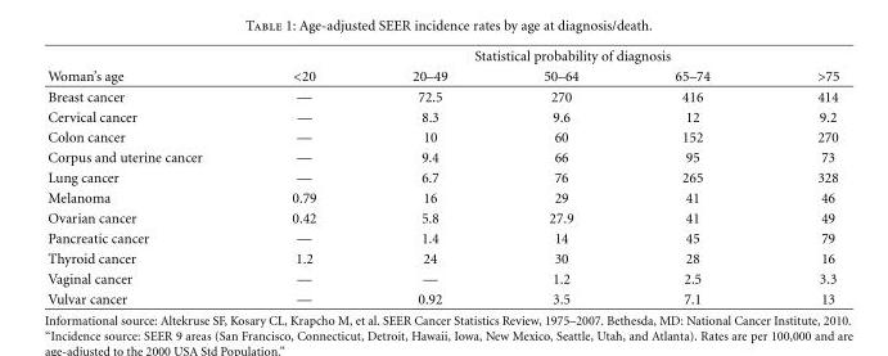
<table><thead><tr><td rowspan="2">Woman’s age</td><td colspan="5">Statistical probability of diagnosis</td></tr><tr><td>&lt;20</td><td>20–49</td><td>50–64</td><td>65–74</td><td>&gt;75</td></tr></thead><tbody><tr><td>Breast cancer</td><td>—</td><td>72.5</td><td>270</td><td>416</td><td>414</td></tr><tr><td>Cervical cancer</td><td>—</td><td>8.3</td><td>9.6</td><td>12</td><td>9.2</td></tr><tr><td>Colon cancer</td><td>—</td><td>10</td><td>60</td><td>152</td><td>270</td></tr><tr><td>Corpus and uterine cancer</td><td>—</td><td>9.4</td><td>66</td><td>95</td><td>73</td></tr><tr><td>Lung cancer</td><td>—</td><td>6.7</td><td>76</td><td>265</td><td>328</td></tr><tr><td>Melanoma</td><td>0.79</td><td>16</td><td>29</td><td>41</td><td>46</td></tr><tr><td>Ovarian cancer</td><td>0.42</td><td>5.8</td><td>27.9</td><td>41</td><td>49</td></tr><tr><td>Pancreatic cancer</td><td>—</td><td>1.4</td><td>14</td><td>45</td><td>79</td></tr><tr><td>Thyroid cancer</td><td>1.2</td><td>24</td><td>30</td><td>28</td><td>16</td></tr><tr><td>Vaginal cancer</td><td>—</td><td>—</td><td>1.2</td><td>2.5</td><td>3.3</td></tr><tr><td>Vulvar cancer</td><td>—</td><td>0.92</td><td>3.5</td><td>7.1</td><td>13</td></tr></tbody></table>